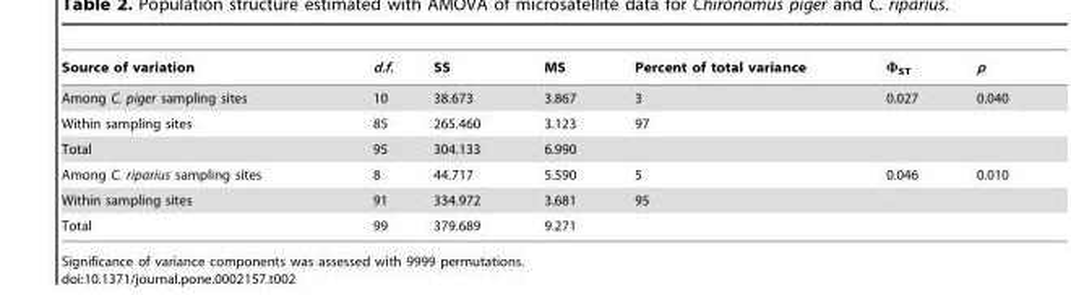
<table><thead><tr><td>Source of variation</td><td>d.f.</td><td>SS</td><td>MS</td><td>Percent of total variance</td><td>Φ<sub>ST</sub></td><td>p</td></tr></thead><tbody><tr><td>Among C. piger sampling sites</td><td>10</td><td>38.673</td><td>3.867</td><td>3</td><td>0.027</td><td>0.040</td></tr><tr><td>Within sampling sites</td><td>85</td><td>265.460</td><td>3.123</td><td>97</td><td></td><td></td></tr><tr><td>Total</td><td>95</td><td>304.133</td><td>6.990</td><td></td><td></td><td></td></tr><tr><td>Among C. riparius sampling sites</td><td>8</td><td>44.717</td><td>5.590</td><td>5</td><td>0.046</td><td>0.010</td></tr><tr><td>Within sampling sites</td><td>91</td><td>334.972</td><td>3.681</td><td>95</td><td></td><td></td></tr><tr><td>Total</td><td>99</td><td>379.689</td><td>9.271</td><td></td><td></td><td></td></tr></tbody></table>